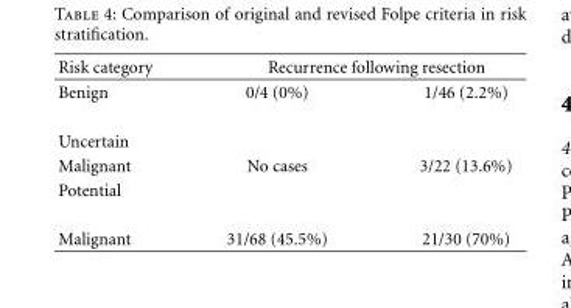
<table><thead><tr><td rowspan="2">Risk category Benign</td><td colspan="2">Recurrence following resection</td></tr><tr><td>0/4 (0%)</td><td>1/46 (2.2%)</td></tr></thead><tbody><tr><td colspan="3">Uncertain</td></tr><tr><td>Malignant</td><td>No cases</td><td>3/22 (13.6%)</td></tr><tr><td colspan="3">Potential</td></tr><tr><td>Malignant</td><td>31/68 (45.5%)</td><td>21/30 (70%)</td></tr></tbody></table>